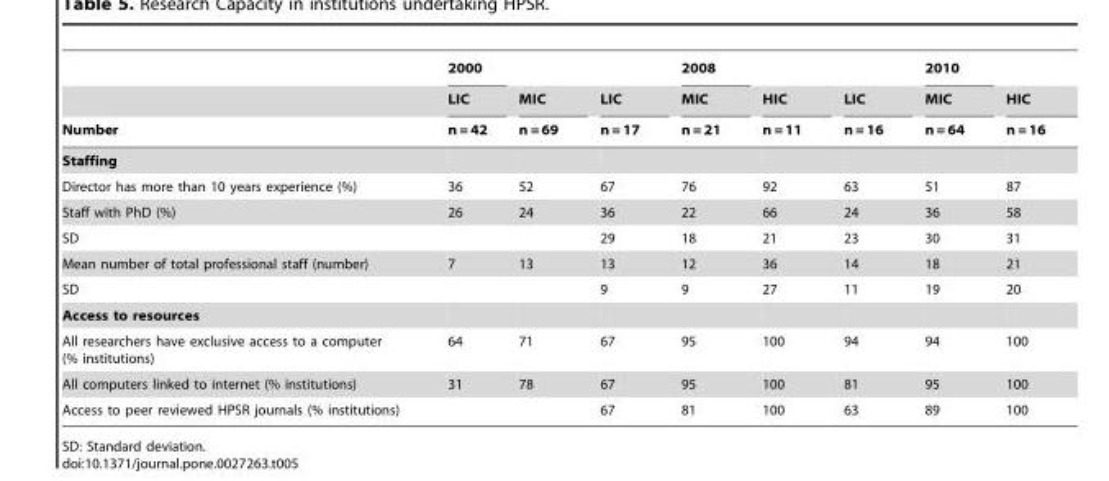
<table><thead><tr><td rowspan="3">Number</td><td rowspan="3">2000 LIC n = 42</td><td rowspan="3">MIC n = 69</td><td rowspan="3">LIC n = 17</td><td rowspan="3">2008 MIC n = 21</td><td rowspan="3">HIC n = 11</td><td rowspan="3">LIC n = 16</td><td rowspan="3">2010 MIC n = 64</td><td rowspan="3">HIC n = 16</td></tr><tr></tr><tr></tr></thead><tbody><tr><td colspan="9">Staffing</td></tr><tr><td>Director has more than 10 years experience (%)</td><td>36</td><td>52</td><td>67</td><td>76</td><td>92</td><td>63</td><td>51</td><td>87</td></tr><tr><td>Staff with PhD (%)</td><td>26</td><td>24</td><td>36</td><td>22</td><td>66</td><td>24</td><td>36</td><td>58</td></tr><tr><td>SD</td><td></td><td></td><td>29</td><td>18</td><td>21</td><td>23</td><td>30</td><td>31</td></tr><tr><td>Mean number of total professional staff (number)</td><td>7</td><td>13</td><td>13</td><td>12</td><td>36</td><td>14</td><td>18</td><td>21</td></tr><tr><td>SD</td><td></td><td></td><td>9</td><td>9</td><td>27</td><td>11</td><td>19</td><td>20</td></tr><tr><td colspan="9">Access to resources</td></tr><tr><td>All researchers have exclusive access to a computer (% institutions)</td><td>64</td><td>71</td><td>67</td><td>95</td><td>100</td><td>94</td><td>94</td><td>100</td></tr><tr><td>All computers linked to internet (% institutions)</td><td>31</td><td>78</td><td>67</td><td>95</td><td>100</td><td>81</td><td>95</td><td>100</td></tr><tr><td>Access to peer reviewed HPSR journals (% institutions)</td><td></td><td></td><td>67</td><td>81</td><td>100</td><td>63</td><td>89</td><td>100</td></tr></tbody></table>